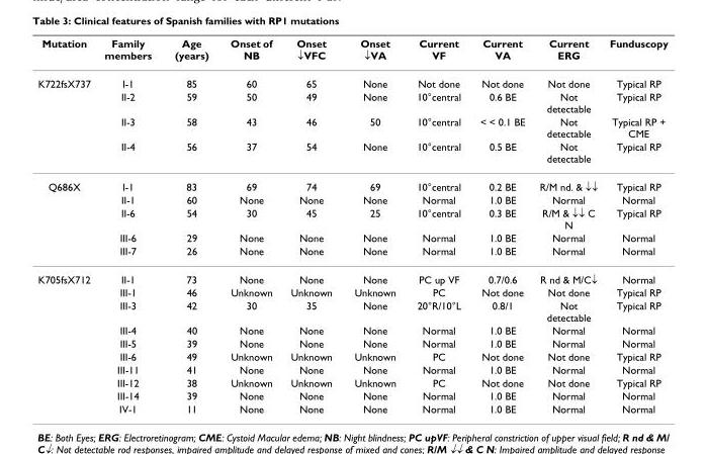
<table><thead><tr><td>Mutation</td><td>Family members</td><td>Age (years)</td><td>Onset of NB</td><td>Onset ↓VFC</td><td>Onset ↓VA</td><td>Current VF</td><td>Current VA</td><td>Current ERG</td><td>Funduscopy</td></tr></thead><tbody><tr><td rowspan="4">K722fsX737</td><td>I-1</td><td>85</td><td>60</td><td>65</td><td>None</td><td>Not done</td><td>Not done</td><td>Not done</td><td>Typical RP</td></tr><tr><td>II-2</td><td>59</td><td>50</td><td>49</td><td>None</td><td>10°central</td><td>0.6 BE</td><td>Not detectable</td><td>Typical RP</td></tr><tr><td>II-3</td><td>58</td><td>43</td><td>46</td><td>50</td><td>10°central</td><td>&lt; &lt; 0.1 BE</td><td>Not detectable</td><td>Typical RP + CME</td></tr><tr><td>II-4</td><td>56</td><td>37</td><td>54</td><td>None</td><td>10°central</td><td>0.5 BE</td><td>Not detectable</td><td>Typical RP</td></tr><tr><td rowspan="5">Q686X</td><td>I-1</td><td>83</td><td>69</td><td>74</td><td>69</td><td>10°central</td><td>0.2 BE</td><td>R/M nd. &amp; ↓↓</td><td>Typical RP</td></tr><tr><td>II-1</td><td>60</td><td>None</td><td>None</td><td>None</td><td>Normal</td><td>1.0 BE</td><td>Normal</td><td>Normal</td></tr><tr><td>II-6</td><td>54</td><td>30</td><td>45</td><td>25</td><td>10°central</td><td>0.3 BE</td><td>R/M &amp; ↓↓ C N</td><td>Typical RP</td></tr><tr><td>III-6</td><td>29</td><td>None</td><td>None</td><td>None</td><td>Normal</td><td>1.0 BE</td><td>Normal</td><td>Normal</td></tr><tr><td>III-7</td><td>26</td><td>None</td><td>None</td><td>None</td><td>Normal</td><td>1.0 BE</td><td>Normal</td><td>Normal</td></tr><tr><td rowspan="10">K705fsX712</td><td>II-1</td><td>73</td><td>None</td><td>None</td><td>None</td><td>PC up VF</td><td>0.7/0.6</td><td>R nd &amp; M/C↓</td><td>Normal</td></tr><tr><td>III-1</td><td>46</td><td>Unknown</td><td>Unknown</td><td>Unknown</td><td>PC</td><td>Not done</td><td>Not done</td><td>Typical RP</td></tr><tr><td>III-3</td><td>42</td><td>30</td><td>35</td><td>None</td><td>20°R/10°L</td><td>0.8/1</td><td>Not detectable</td><td>Typical RP</td></tr><tr><td>III-4</td><td>40</td><td>None</td><td>None</td><td>None</td><td>Normal</td><td>1.0 BE</td><td>Normal</td><td>Normal</td></tr><tr><td>III-5</td><td>39</td><td>None</td><td>None</td><td>None</td><td>Normal</td><td>1.0 BE</td><td>Normal</td><td>Normal</td></tr><tr><td>III-6</td><td>49</td><td>Unknown</td><td>Unknown</td><td>Unknown</td><td>PC</td><td>Not done</td><td>Not done</td><td>Typical RP</td></tr><tr><td>III-11</td><td>41</td><td>None</td><td>None</td><td>None</td><td>Normal</td><td>1.0 BE</td><td>Normal</td><td>Normal</td></tr><tr><td>III-12</td><td>38</td><td>Unknown</td><td>Unknown</td><td>Unknown</td><td>PC</td><td>Not done</td><td>Not done</td><td>Typical RP</td></tr><tr><td>III-14</td><td>39</td><td>None</td><td>None</td><td>None</td><td>Normal</td><td>1.0 BE</td><td>Normal</td><td>Normal</td></tr><tr><td>IV-1</td><td>11</td><td>None</td><td>None</td><td>None</td><td>Normal</td><td>1.0 BE</td><td>Normal</td><td>Normal</td></tr></tbody></table>